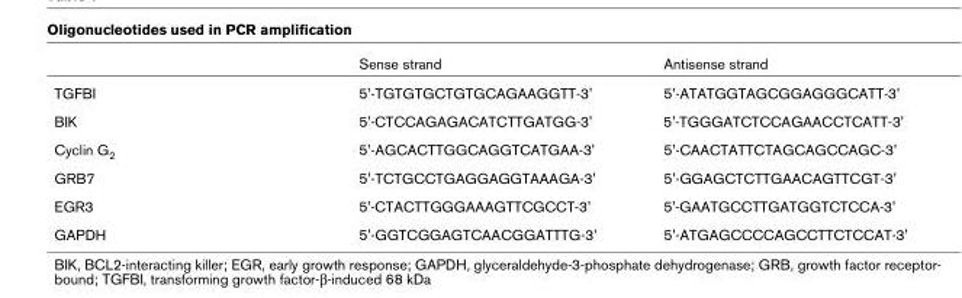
<table><thead><tr><td></td><td>Sense strand</td><td>Antisense strand</td></tr></thead><tbody><tr><td>TGFBI</td><td>5&#x27;-TGTGTGCTGTGCAGAAGGTT-3&#x27;</td><td>5&#x27;-ATATGGTAGCGGAGGGCATT-3&#x27;</td></tr><tr><td>BIK</td><td>5&#x27;-CTCCAGAGACATCTTGATGG-3&#x27;</td><td>5&#x27;-TGGGATCTCCAGAACCTCATT-3&#x27;</td></tr><tr><td>Cyclin G2</td><td>5&#x27;-AGCACTTGGCAGGTCATGAA-3&#x27;</td><td>5&#x27;-CAACTATTCTAGCAGCCAGC-3&#x27;</td></tr><tr><td>GRB7</td><td>5&#x27;-TCTGCCTGAGGAGGTAAAGA-3&#x27;</td><td>5&#x27;-GGAGCTCTTGAACAGTTCGT-3&#x27;</td></tr><tr><td>EGR3</td><td>5&#x27;-CTACTTGGGAAAGTTCGCCT-3&#x27;</td><td>5&#x27;-GAATGCCTTGATGGTCTCCA-3&#x27;</td></tr><tr><td>GAPDH</td><td>5&#x27;-GGTCGGAGTCAACGGATTTG-3&#x27;</td><td>5&#x27;-ATGAGCCCCAGCCTTCTCCAT-3&#x27;</td></tr></tbody></table>